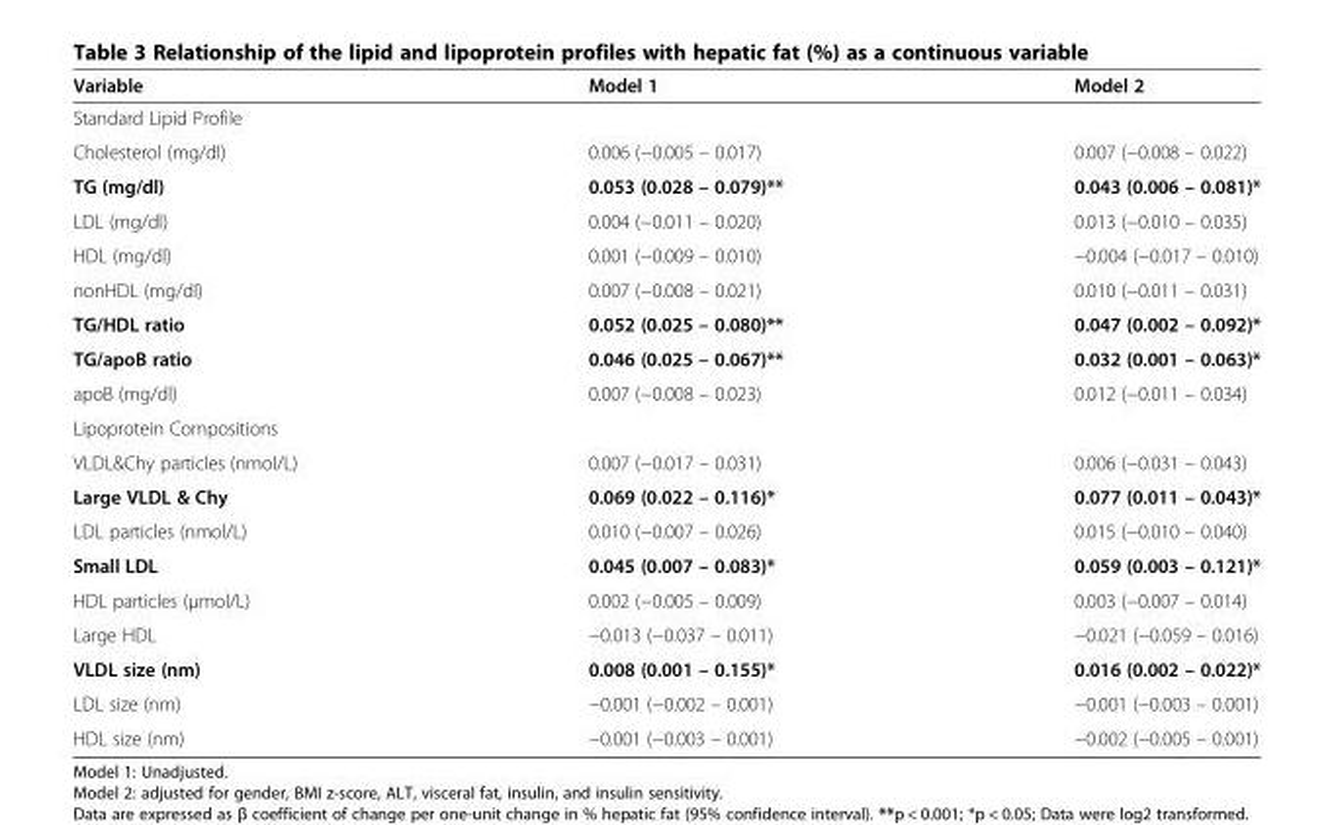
<table><thead><tr><td>Variable</td><td>Model 1</td><td>Model 2</td></tr></thead><tbody><tr><td colspan="3">Standard Lipid Profile</td></tr><tr><td>Cholesterol (mg/dl)</td><td>0.006 (−0.005 – 0.017)</td><td>0.007 (−0.008 – 0.022)</td></tr><tr><td>TG (mg/dl)</td><td>0.053 (0.028 – 0.079)**</td><td>0.043 (0.006 – 0.081)*</td></tr><tr><td>LDL (mg/dl)</td><td>0.004 (−0.011 – 0.020)</td><td>0.013 (−0.010 – 0.035)</td></tr><tr><td>HDL (mg/dl)</td><td>0.001 (−0.009 – 0.010)</td><td>−0.004 (−0.017 – 0.010)</td></tr><tr><td>nonHDL (mg/dl)</td><td>0.007 (−0.008 – 0.021)</td><td>0.010 (−0.011 – 0.031)</td></tr><tr><td>TG/HDL ratio</td><td>0.052 (0.025 – 0.080)**</td><td>0.047 (0.002 – 0.092)*</td></tr><tr><td>TG/apoB ratio</td><td>0.046 (0.025 – 0.067)**</td><td>0.032 (0.001 – 0.063)*</td></tr><tr><td>apoB (mg/dl)</td><td>0.007 (−0.008 – 0.023)</td><td>0.012 (−0.011 – 0.034)</td></tr><tr><td colspan="3">Lipoprotein Compositions</td></tr><tr><td>VLDL&amp;Chy particles (nmol/L)</td><td>0.007 (−0.017 – 0.031)</td><td>0.006 (−0.031 – 0.043)</td></tr><tr><td>Large VLDL &amp; Chy</td><td>0.069 (0.022 – 0.116)*</td><td>0.077 (0.011 – 0.043)*</td></tr><tr><td>LDL particles (nmol/L)</td><td>0.010 (−0.007 – 0.026)</td><td>0.015 (−0.010 – 0.040)</td></tr><tr><td>Small LDL</td><td>0.045 (0.007 – 0.083)*</td><td>0.059 (0.003 – 0.121)*</td></tr><tr><td>HDL particles (μmol/L)</td><td>0.002 (−0.005 – 0.009)</td><td>0.003 (−0.007 – 0.014)</td></tr><tr><td>Large HDL</td><td>−0.013 (−0.037 – 0.011)</td><td>−0.021 (−0.059 – 0.016)</td></tr><tr><td>VLDL size (nm)</td><td>0.008 (0.001 – 0.155)*</td><td>0.016 (0.002 – 0.022)*</td></tr><tr><td>LDL size (nm)</td><td>−0.001 (−0.002 – 0.001)</td><td>−0.001 (−0.003 – 0.001)</td></tr><tr><td>HDL size (nm)</td><td>−0.001 (−0.003 – 0.001)</td><td>−0.002 (−0.005 – 0.001)</td></tr></tbody></table>